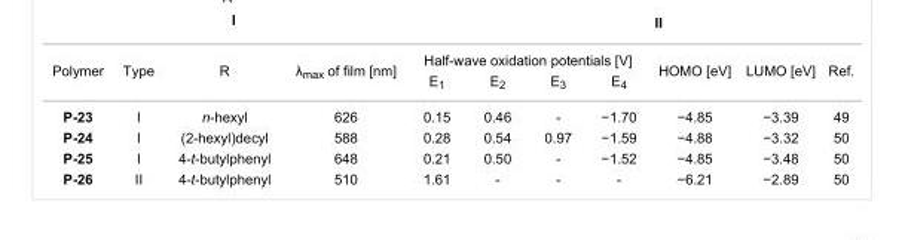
<table><tbody><tr><td rowspan="2">Polymer</td><td rowspan="2">Type</td><td rowspan="2">R</td><td rowspan="2">λ<sub>max</sub> of film [nm]</td><td colspan="4">Half-wave oxidation potentials [V]</td><td rowspan="2">HOMO [eV]</td><td rowspan="2">LUMO [eV]</td><td rowspan="2">Ref.</td></tr><tr><td>E<sub>1</sub></td><td>E<sub>2</sub></td><td>E<sub>3</sub></td><td>E<sub>4</sub></td></tr><tr><td>P-23</td><td>I</td><td>n-hexyl</td><td>626</td><td>0.15</td><td>0.46</td><td>-</td><td>−1.70</td><td>−4.85</td><td>−3.39</td><td>49</td></tr><tr><td>P-24</td><td>I</td><td>(2-hexyl)decyl</td><td>588</td><td>0.28</td><td>0.54</td><td>0.97</td><td>−1.59</td><td>−4.88</td><td>−3.32</td><td>50</td></tr><tr><td>P-25</td><td>I</td><td>4-t-butylphenyl</td><td>648</td><td>0.21</td><td>0.50</td><td>-</td><td>−1.52</td><td>−4.85</td><td>−3.48</td><td>50</td></tr><tr><td>P-26</td><td>II</td><td>4-t-butylphenyl</td><td>510</td><td>1.61</td><td>-</td><td>-</td><td>-</td><td>−6.21</td><td>−2.89</td><td>50</td></tr></tbody></table>